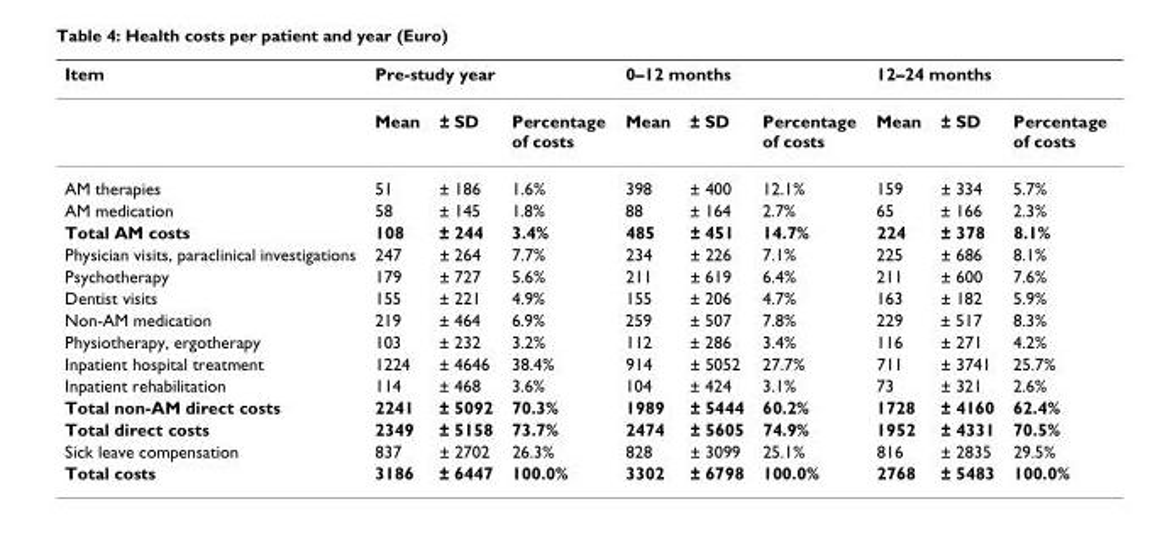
<table><thead><tr><td rowspan="2">Item</td><td colspan="3">Pre-study year</td><td colspan="3">0–12 months</td><td colspan="3">12–24 months</td></tr><tr><td>Mean</td><td>± SD</td><td>Percentage of costs</td><td>Mean</td><td>± SD</td><td>Percentage of costs</td><td>Mean</td><td>± SD</td><td>Percentage of costs</td></tr></thead><tbody><tr><td>AM therapies</td><td>51</td><td>± 186</td><td>1.6%</td><td>398</td><td>± 400</td><td>12.1%</td><td>159</td><td>± 334</td><td>5.7%</td></tr><tr><td>AM medication</td><td>58</td><td>± 145</td><td>1.8%</td><td>88</td><td>± 164</td><td>2.7%</td><td>65</td><td>± 166</td><td>2.3%</td></tr><tr><td>Total AM costs</td><td>108</td><td>± 244</td><td>3.4%</td><td>485</td><td>± 451</td><td>14.7%</td><td>224</td><td>± 378</td><td>8.1%</td></tr><tr><td>Physician visits, paraclinical investigations</td><td>247</td><td>± 264</td><td>7.7%</td><td>234</td><td>± 226</td><td>7.1%</td><td>225</td><td>± 686</td><td>8.1%</td></tr><tr><td>Psychotherapy</td><td>179</td><td>± 727</td><td>5.6%</td><td>211</td><td>± 619</td><td>6.4%</td><td>211</td><td>± 600</td><td>7.6%</td></tr><tr><td>Dentist visits</td><td>155</td><td>± 221</td><td>4.9%</td><td>155</td><td>± 206</td><td>4.7%</td><td>163</td><td>± 182</td><td>5.9%</td></tr><tr><td>Non-AM medication</td><td>219</td><td>± 464</td><td>6.9%</td><td>259</td><td>± 507</td><td>7.8%</td><td>229</td><td>± 517</td><td>8.3%</td></tr><tr><td>Physiotherapy, ergotherapy</td><td>103</td><td>± 232</td><td>3.2%</td><td>112</td><td>± 286</td><td>3.4%</td><td>116</td><td>± 271</td><td>4.2%</td></tr><tr><td>Inpatient hospital treatment</td><td>1224</td><td>± 4646</td><td>38.4%</td><td>914</td><td>± 5052</td><td>27.7%</td><td>711</td><td>± 3741</td><td>25.7%</td></tr><tr><td>Inpatient rehabilitation</td><td>114</td><td>± 468</td><td>3.6%</td><td>104</td><td>± 424</td><td>3.1%</td><td>73</td><td>± 321</td><td>2.6%</td></tr><tr><td>Total non-AM direct costs</td><td>2241</td><td>± 5092</td><td>70.3%</td><td>1989</td><td>± 5444</td><td>60.2%</td><td>1728</td><td>± 4160</td><td>62.4%</td></tr><tr><td>Total direct costs</td><td>2349</td><td>± 5158</td><td>73.7%</td><td>2474</td><td>± 5605</td><td>74.9%</td><td>1952</td><td>± 4331</td><td>70.5%</td></tr><tr><td>Sick leave compensation</td><td>837</td><td>± 2702</td><td>26.3%</td><td>828</td><td>± 3099</td><td>25.1%</td><td>816</td><td>± 2835</td><td>29.5%</td></tr><tr><td>Total costs</td><td>3186</td><td>± 6447</td><td>100.0%</td><td>3302</td><td>± 6798</td><td>100.0%</td><td>2768</td><td>± 5483</td><td>100.0%</td></tr></tbody></table>